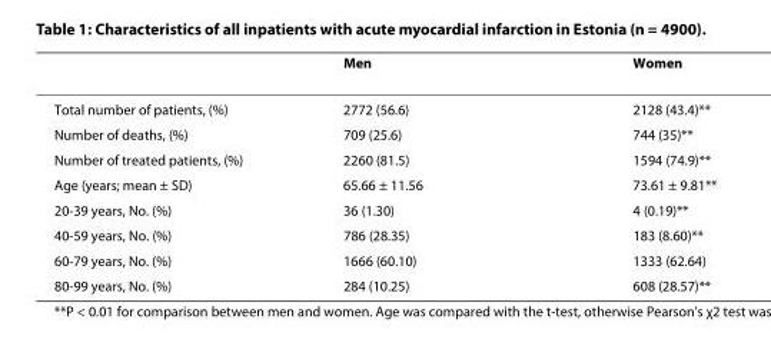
<table><thead><tr><td></td><td>Men</td><td>Women</td></tr></thead><tbody><tr><td>Total number of patients, (%)</td><td>2772 (56.6)</td><td>2128 (43.4)**</td></tr><tr><td>Number of deaths, (%)</td><td>709 (25.6)</td><td>744 (35)**</td></tr><tr><td>Number of treated patients, (%)</td><td>2260 (81.5)</td><td>1594 (74.9)**</td></tr><tr><td>Age (years; mean ± SD)</td><td>65.66 ± 11.56</td><td>73.61 ± 9.81**</td></tr><tr><td>20-39 years, No. (%)</td><td>36 (1.30)</td><td>4 (0.19)**</td></tr><tr><td>40-59 years, No. (%)</td><td>786 (28.35)</td><td>183 (8.60)**</td></tr><tr><td>60-79 years, No. (%)</td><td>1666 (60.10)</td><td>1333 (62.64)</td></tr><tr><td>80-99 years, No. (%)</td><td>284 (10.25)</td><td>608 (28.57)**</td></tr></tbody></table>